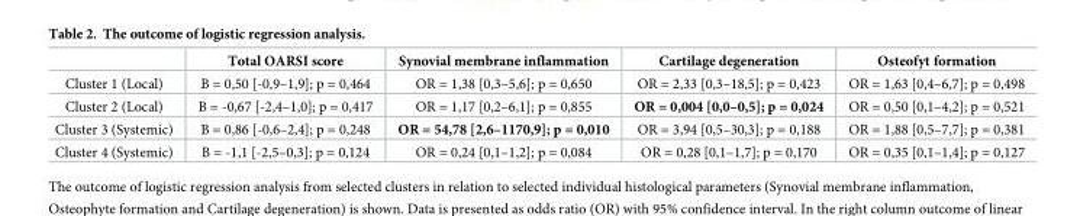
<table><thead><tr><td></td><td>Total OARSI score</td><td>Synovial membrane inflammation</td><td>Cartilage degeneration</td><td>Osteofyt formation</td></tr></thead><tbody><tr><td>Cluster 1 (Local)</td><td>B = 0,50 [-0,9–1,9]; p = 0,464</td><td>OR = 1,38 [0,3–5,6]; p = 0,650</td><td>OR = 2,33 [0,3–18,5]; p = 0,423</td><td>OR = 1,63 [0,4–6,7]; p = 0,498</td></tr><tr><td>Cluster 2 (Local)</td><td>B = -0,67 [-2,4–1,0]; p = 0,417</td><td>OR = 1,17 [0,2–6,1]; p = 0,855</td><td>OR = 0,004 [0,0–0,5]; p = 0,024</td><td>OR = 0,50 [0,1–4,2]; p = 0,521</td></tr><tr><td>Cluster 3 (Systemic)</td><td>B = 0,86 [-0,6–2,4]; p = 0,248</td><td>OR = 54,78 [2,6–1170,9]; p = 0,010</td><td>OR = 3,94 [0,5–30,3]; p = 0,188</td><td>OR = 1,88 [0,5–7,7]; p = 0,381</td></tr><tr><td>Cluster 4 (Systemic)</td><td>B = -1,1 [-2,5–0,3]; p = 0,124</td><td>OR = 0,24 [0,1–1,2]; p = 0,084</td><td>OR = 0,28 [0,1–1,7]; p = 0,170</td><td>OR = 0,35 [0,1–1,4]; p = 0,127</td></tr></tbody></table>